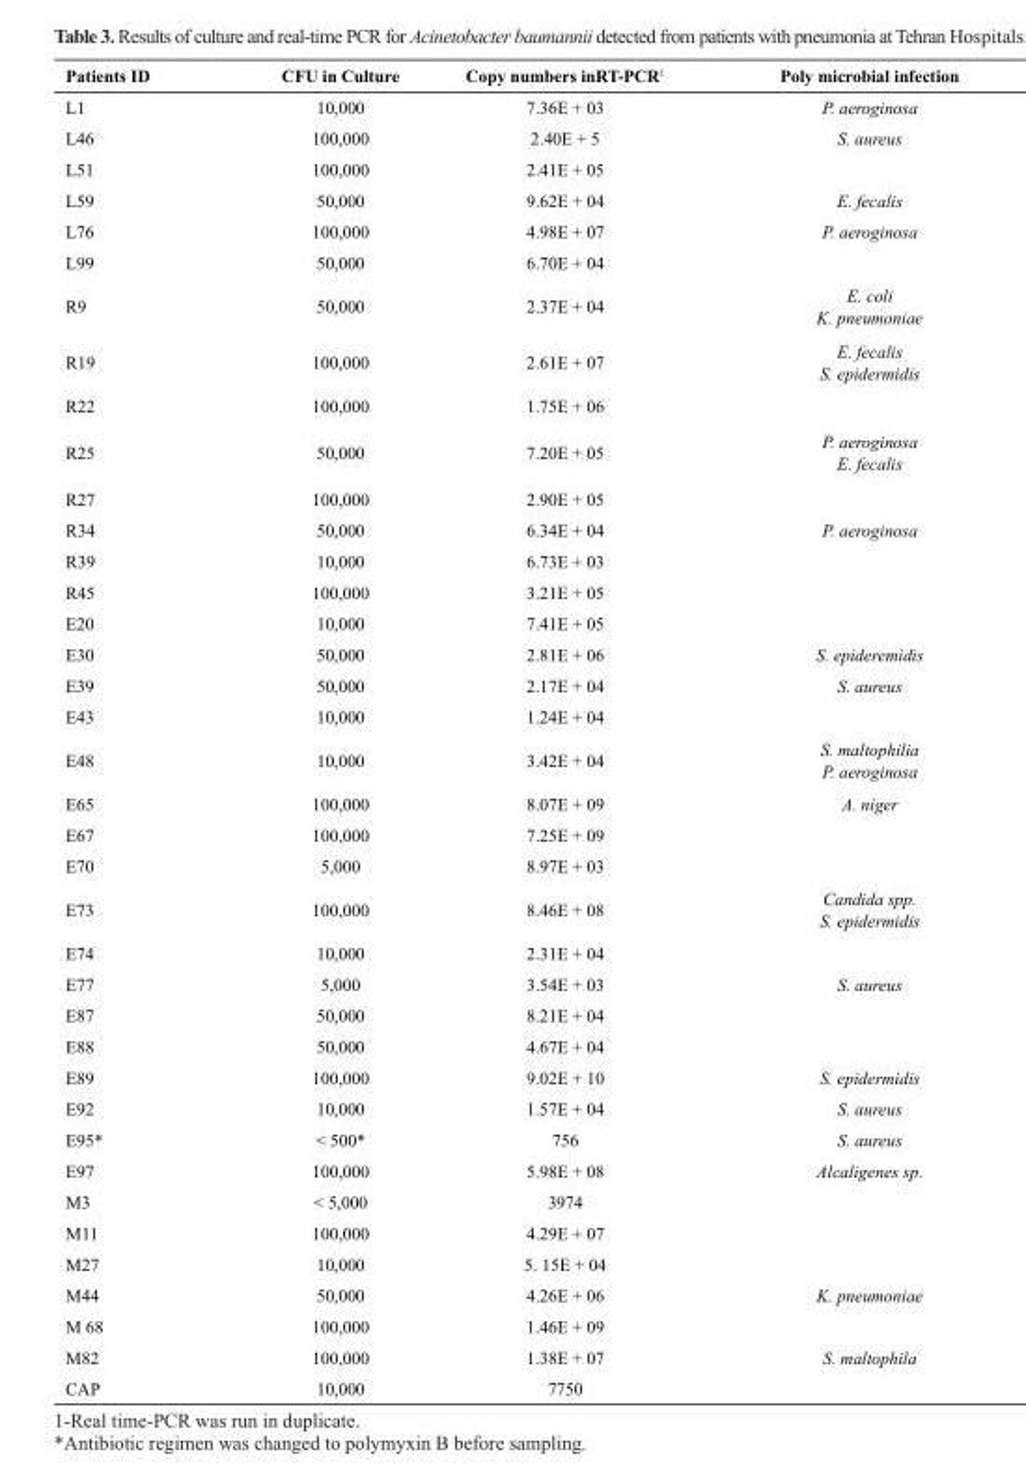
<table><thead><tr><td>patients ID</td><td>CFU in Culture</td><td>Copy numbers inRT-pCR<sup>1</sup></td><td>poly microbial infection</td></tr></thead><tbody><tr><td>L1</td><td>10,000</td><td>7.36E + 03</td><td>P. aeroginosa</td></tr><tr><td>L46</td><td>100,000</td><td>2.40E + 5</td><td>S. aureus</td></tr><tr><td>L51</td><td>100,000</td><td>2.41E + 05</td><td></td></tr><tr><td>L59</td><td>50,000</td><td>9.62E + 04</td><td>E. fecalis</td></tr><tr><td>L76</td><td>100,000</td><td>4.98E + 07</td><td>P. aeroginosa</td></tr><tr><td>L99</td><td>50,000</td><td>6.70E + 04</td><td></td></tr><tr><td>R9</td><td>50,000</td><td>2.37E + 04</td><td>E. coli K. pneumoniae</td></tr><tr><td>R19</td><td>100,000</td><td>2.61E + 07</td><td>E. fecalis S. epidermidis</td></tr><tr><td>R22</td><td>100,000</td><td>1.75E + 06</td><td></td></tr><tr><td>R25</td><td>50,000</td><td>7.20E + 05</td><td>P. aeroginosa E. fecalis</td></tr><tr><td>R27</td><td>100,000</td><td>2.90E + 05</td><td></td></tr><tr><td>R34</td><td>50,000</td><td>6.34E + 04</td><td>P. aeroginosa</td></tr><tr><td>R39</td><td>10,000</td><td>6.73E + 03</td><td></td></tr><tr><td>R45</td><td>100,000</td><td>3.21E + 05</td><td></td></tr><tr><td>E20</td><td>10,000</td><td>7.41E + 05</td><td></td></tr><tr><td>E30</td><td>50,000</td><td>2.81E + 06</td><td>S. epideremidis</td></tr><tr><td>E39</td><td>50,000</td><td>2.17E + 04</td><td>S. aureus</td></tr><tr><td>E43</td><td>10,000</td><td>1.24E + 04</td><td></td></tr><tr><td>E48</td><td>10,000</td><td>3.42E + 04</td><td>S. maltophilia P. aeroginosa</td></tr><tr><td>E65</td><td>100,000</td><td>8.07E + 09</td><td>A. niger</td></tr><tr><td>E67</td><td>100,000</td><td>7.25E + 09</td><td></td></tr><tr><td>E70</td><td>5,000</td><td>8.97E + 03</td><td></td></tr><tr><td>E73</td><td>100,000</td><td>8.46E + 08</td><td>Candida spp. S. epidermidis</td></tr><tr><td>E74</td><td>10,000</td><td>2.31E + 04</td><td></td></tr><tr><td>E77</td><td>5,000</td><td>3.54E + 03</td><td>S. aureus</td></tr><tr><td>E87</td><td>50,000</td><td>8.21E + 04</td><td></td></tr><tr><td>E88</td><td>50,000</td><td>4.67E + 04</td><td></td></tr><tr><td>E89</td><td>100,000</td><td>9.02E + 10</td><td>S. epidermidis</td></tr><tr><td>E92</td><td>10,000</td><td>1.57E + 04</td><td>S. aureus</td></tr><tr><td>E95*</td><td>&lt; 500*</td><td>756</td><td>S. aureus</td></tr><tr><td>E97</td><td>100,000</td><td>5.98E + 08</td><td>Alcaligenes sp.</td></tr><tr><td>M3</td><td>&lt; 5,000</td><td>3974</td><td></td></tr><tr><td>M11</td><td>100,000</td><td>4.29E + 07</td><td></td></tr><tr><td>M27</td><td>10,000</td><td>5. 15E + 04</td><td></td></tr><tr><td>M44</td><td>50,000</td><td>4.26E + 06</td><td>K. pneumoniae</td></tr><tr><td>M 68</td><td>100,000</td><td>1.46E + 09</td><td></td></tr><tr><td>M82</td><td>100,000</td><td>1.38E + 07</td><td>S. maltophila</td></tr><tr><td>CAP</td><td>10,000</td><td>7750</td><td></td></tr></tbody></table>